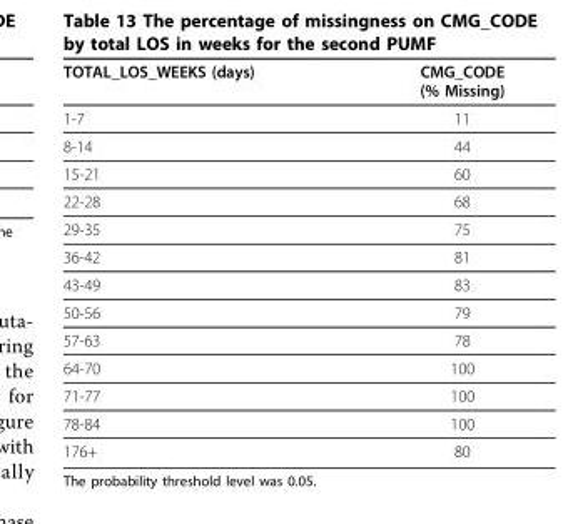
<table><thead><tr><td>TOTAL_LOS_WEEKS (days)</td><td>CMG_CODE (% Missing)</td></tr></thead><tbody><tr><td>1-7</td><td>11</td></tr><tr><td>8-14</td><td>44</td></tr><tr><td>15-21</td><td>60</td></tr><tr><td>22-28</td><td>68</td></tr><tr><td>29-35</td><td>75</td></tr><tr><td>36-42</td><td>81</td></tr><tr><td>43-49</td><td>83</td></tr><tr><td>50-56</td><td>79</td></tr><tr><td>57-63</td><td>78</td></tr><tr><td>64-70</td><td>100</td></tr><tr><td>71-77</td><td>100</td></tr><tr><td>78-84</td><td>100</td></tr><tr><td>176+</td><td>80</td></tr></tbody></table>